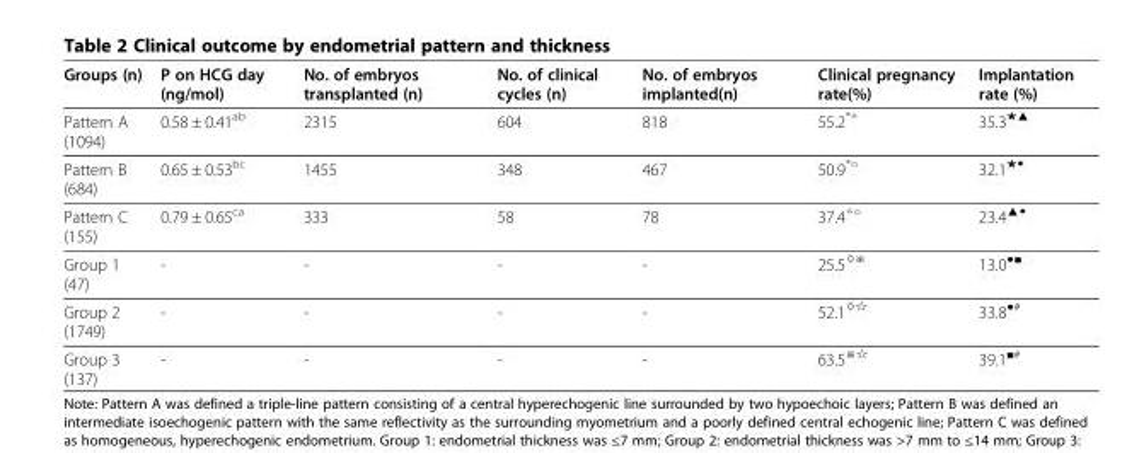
<table><thead><tr><td>Groups (n)</td><td>P on HCG day (ng/mol)</td><td>No. of embryos transplanted (n)</td><td>No. of clinical cycles (n)</td><td>No. of embryos implanted(n)</td><td>Clinical pregnancy rate(%)</td><td>Implantation rate (%)</td></tr></thead><tbody><tr><td>Pattern A (1094)</td><td>0.58 ± 0.41<sup>ab</sup></td><td>2315</td><td>604</td><td>818</td><td>55.2<sup>*△</sup></td><td>35.3<sup>★▲</sup></td></tr><tr><td>Pattern B (684)</td><td>0.65 ± 0.53<sup>bc</sup></td><td>1455</td><td>348</td><td>467</td><td>50.9<sup>*○</sup></td><td>32.1<sup>★◆</sup></td></tr><tr><td>Pattern C (155)</td><td>0.79 ± 0.65<sup>ca</sup></td><td>333</td><td>58</td><td>78</td><td>37.4<sup>△○</sup></td><td>23.4<sup>▲◆</sup></td></tr><tr><td>Group 1 (47)</td><td>-</td><td>-</td><td>-</td><td>-</td><td>25.5<sup>◊※</sup></td><td>13.0<sup>●■</sup></td></tr><tr><td>Group 2 (1749)</td><td>-</td><td>-</td><td>-</td><td>-</td><td>52.1<sup>◊☆</sup></td><td>33.8<sup>●#</sup></td></tr><tr><td>Group 3 (137)</td><td>-</td><td>-</td><td>-</td><td>-</td><td>63.5<sup>※☆</sup></td><td>39.1<sup>■#</sup></td></tr></tbody></table>